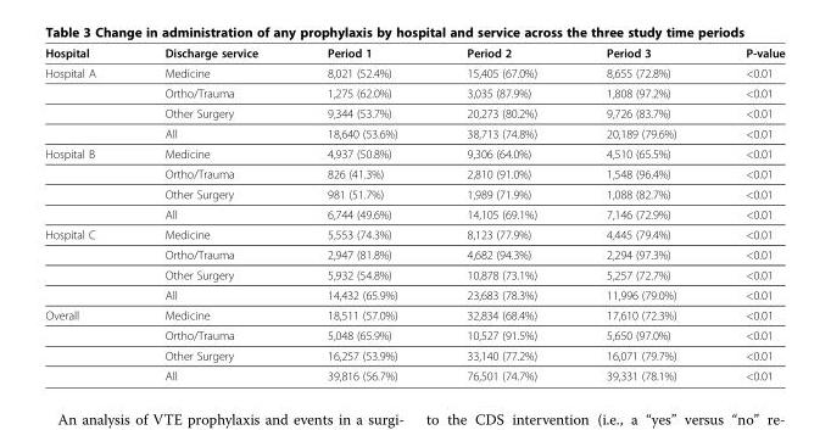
<table><thead><tr><td>Hospital</td><td>Discharge service</td><td>Period 1</td><td>Period 2</td><td>Period 3</td><td>P-value</td></tr></thead><tbody><tr><td rowspan="4">Hospital A</td><td>Medicine</td><td>8,021 (52.4%)</td><td>15,405 (67.0%)</td><td>8,655 (72.8%)</td><td>&lt;0.01</td></tr><tr><td>Ortho/Trauma</td><td>1,275 (62.0%)</td><td>3,035 (87.9%)</td><td>1,808 (97.2%)</td><td>&lt;0.01</td></tr><tr><td>Other Surgery</td><td>9,344 (53.7%)</td><td>20,273 (80.2%)</td><td>9,726 (83.7%)</td><td>&lt;0.01</td></tr><tr><td>All</td><td>18,640 (53.6%)</td><td>38,713 (74.8%)</td><td>20,189 (79.6%)</td><td>&lt;0.01</td></tr><tr><td rowspan="4">Hospital B</td><td>Medicine</td><td>4,937 (50.8%)</td><td>9,306 (64.0%)</td><td>4,510 (65.5%)</td><td>&lt;0.01</td></tr><tr><td>Ortho/Trauma</td><td>826 (41.3%)</td><td>2,810 (91.0%)</td><td>1,548 (96.4%)</td><td>&lt;0.01</td></tr><tr><td>Other Surgery</td><td>981 (51.7%)</td><td>1,989 (71.9%)</td><td>1,088 (82.7%)</td><td>&lt;0.01</td></tr><tr><td>All</td><td>6,744 (49.6%)</td><td>14,105 (69.1%)</td><td>7,146 (72.9%)</td><td>&lt;0.01</td></tr><tr><td rowspan="4">Hospital C</td><td>Medicine</td><td>5,553 (74.3%)</td><td>8,123 (77.9%)</td><td>4,445 (79.4%)</td><td>&lt;0.01</td></tr><tr><td>Ortho/Trauma</td><td>2,947 (81.8%)</td><td>4,682 (94.3%)</td><td>2,294 (97.3%)</td><td>&lt;0.01</td></tr><tr><td>Other Surgery</td><td>5,932 (54.8%)</td><td>10,878 (73.1%)</td><td>5,257 (72.7%)</td><td>&lt;0.01</td></tr><tr><td>All</td><td>14,432 (65.9%)</td><td>23,683 (78.3%)</td><td>11,996 (79.0%)</td><td>&lt;0.01</td></tr><tr><td rowspan="4">Overall</td><td>Medicine</td><td>18,511 (57.0%)</td><td>32,834 (68.4%)</td><td>17,610 (72.3%)</td><td>&lt;0.01</td></tr><tr><td>Ortho/Trauma</td><td>5,048 (65.9%)</td><td>10,527 (91.5%)</td><td>5,650 (97.0%)</td><td>&lt;0.01</td></tr><tr><td>Other Surgery</td><td>16,257 (53.9%)</td><td>33,140 (77.2%)</td><td>16,071 (79.7%)</td><td>&lt;0.01</td></tr><tr><td>All</td><td>39,816 (56.7%)</td><td>76,501 (74.7%)</td><td>39,331 (78.1%)</td><td>&lt;0.01</td></tr></tbody></table>